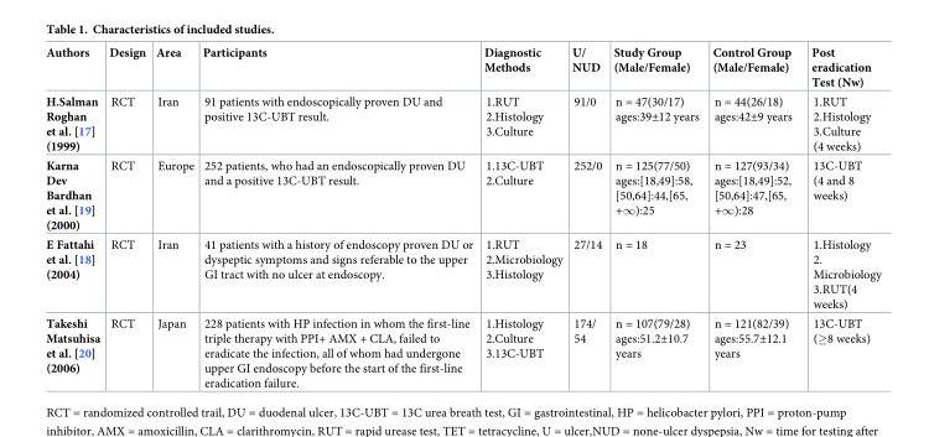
<table><thead><tr><td>Authors</td><td>Design</td><td>Area</td><td>Participants</td><td>Diagnostic Methods</td><td>U/ NUD</td><td>Study Group (Male/Female)</td><td>Control Group (Male/Female)</td><td>Post eradication Test (Nw)</td></tr></thead><tbody><tr><td>H.Salman Roghan et al. [17] (1999)</td><td>RCT</td><td>Iran</td><td>91 patients with endoscopically proven DU and positive 13C-UBT result.</td><td>1.RUT 2.Histology 3.Culture</td><td>91/0</td><td>n = 47(30/17) ages:39±12 years</td><td>n = 44(26/18) ages:42±9 years</td><td>1.RUT 2.Histology 3.Culture (4 weeks)</td></tr><tr><td>Karna Dev Bardhan et al. [19] (2000)</td><td>RCT</td><td>Europe</td><td>252 patients, who had an endoscopically proven DU and a positive 13C-UBT result.</td><td>1.13C-UBT 2.Culture</td><td>252/0</td><td>n = 125(77/50) ages:[18,49]:58, [50,64]:44,[65, +∞):25</td><td>n = 127(93/34) ages:[18,49]:52, [50,64]:47,[65, +∞):28</td><td>13C-UBT (4 and 8 weeks)</td></tr><tr><td>E Fattahi et al. [18] (2004)</td><td>RCT</td><td>Iran</td><td>41 patients with a history of endoscopy proven DU or dyspeptic symptoms and signs referable to the upper GI tract with no ulcer at endoscopy.</td><td>1.RUT 2.Microbiology 3.Histology</td><td>27/14</td><td>n = 18</td><td>n = 23</td><td>1.Histology 2. Microbiology 3.RUT(4 weeks)</td></tr><tr><td>Takeshi Matsuhisa et al. [20] (2006)</td><td>RCT</td><td>Japan</td><td>228 patients with HP infection in whom the first-line triple therapy with PPI+ AMX + CLA, failed to eradicate the infection, all of whom had undergone upper GI endoscopy before the start of the first-line eradication failure.</td><td>1.Histology 2.Culture 3.13C-UBT</td><td>174/ 54</td><td>n = 107(79/28) ages:51.2±10.7 years</td><td>n = 121(82/39) ages:55.7±12.1 years</td><td>13C-UBT (≥8 weeks)</td></tr></tbody></table>